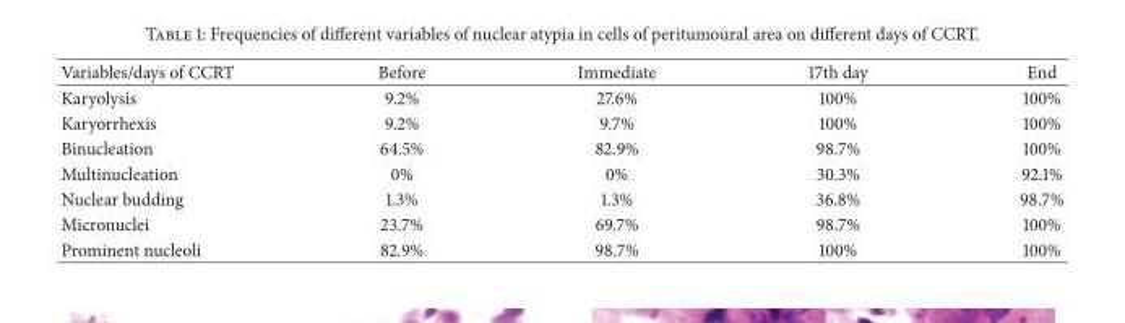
<table><thead><tr><td>Variables/days of CCRT</td><td>Before</td><td>Immediate</td><td>17th day</td><td>End</td></tr></thead><tbody><tr><td>Karyolysis</td><td>9.2%</td><td>27.6%</td><td>100%</td><td>100%</td></tr><tr><td>Karyorrhexis</td><td>9.2%</td><td>9.7%</td><td>100%</td><td>100%</td></tr><tr><td>Binucleation</td><td>64.5%</td><td>82.9%</td><td>98.7%</td><td>100%</td></tr><tr><td>Multinucleation</td><td>0%</td><td>0%</td><td>30.3%</td><td>92.1%</td></tr><tr><td>Nuclear budding</td><td>1.3%</td><td>1.3%</td><td>36.8%</td><td>98.7%</td></tr><tr><td>Micronuclei</td><td>23.7%</td><td>69.7%</td><td>98.7%</td><td>100%</td></tr><tr><td>Prominent nucleoli</td><td>82.9%</td><td>98.7%</td><td>100%</td><td>100%</td></tr></tbody></table>